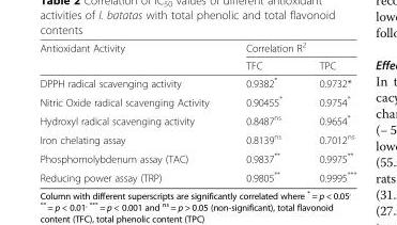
<table><thead><tr><td rowspan="2">Antioxidant Activity</td><td colspan="2">Correlation R<sup>2</sup></td></tr><tr><td>TFC</td><td>TPC</td></tr></thead><tbody><tr><td>DPPH radical scavenging activity</td><td>0.9382*</td><td>0.9732*</td></tr><tr><td>Nitric Oxide radical scavenging Activity</td><td>0.90455*</td><td>0.9754*</td></tr><tr><td>Hydroxyl radical scavenging activity</td><td>0.8487<sup>ns</sup></td><td>0.9654*</td></tr><tr><td>Iron chelating assay</td><td>0.8139<sup>ns</sup></td><td>0.7012<sup>ns</sup></td></tr><tr><td>Phosphomolybdenum assay (TAC)</td><td>0.9837**</td><td>0.9975**</td></tr><tr><td>Reducing power assay (TRP)</td><td>0.9805**</td><td>0.9995***</td></tr></tbody></table>